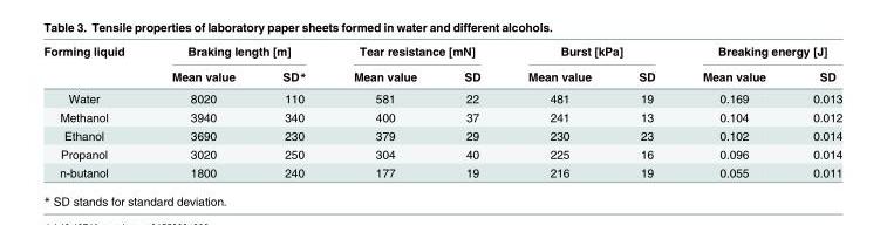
<table><thead><tr><td rowspan="2">Forming liquid</td><td colspan="2">Braking length [m]</td><td colspan="2">Tear resistance [mN]</td><td colspan="2">Burst [kPa]</td><td colspan="2">Breaking energy [J]</td></tr><tr><td>Mean value</td><td>SD*</td><td>Mean value</td><td>SD</td><td>Mean value</td><td>SD</td><td>Mean value</td><td>SD</td></tr></thead><tbody><tr><td>Water</td><td>8020</td><td>110</td><td>581</td><td>22</td><td>481</td><td>19</td><td>0.169</td><td>0.013</td></tr><tr><td>Methanol</td><td>3940</td><td>340</td><td>400</td><td>37</td><td>241</td><td>13</td><td>0.104</td><td>0.012</td></tr><tr><td>Ethanol</td><td>3690</td><td>230</td><td>379</td><td>29</td><td>230</td><td>23</td><td>0.102</td><td>0.014</td></tr><tr><td>Propanol</td><td>3020</td><td>250</td><td>304</td><td>40</td><td>225</td><td>16</td><td>0.096</td><td>0.014</td></tr><tr><td>n-butanol</td><td>1800</td><td>240</td><td>177</td><td>19</td><td>216</td><td>19</td><td>0.055</td><td>0.011</td></tr></tbody></table>